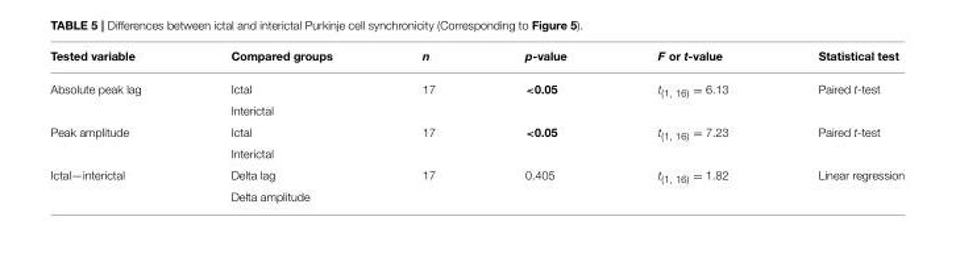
<table><thead><tr><td>Tested variable</td><td>Compared groups</td><td>n</td><td>p-value</td><td>F or t-value</td><td>Statistical test</td></tr></thead><tbody><tr><td rowspan="2">Absolute peak lag</td><td>Ictal</td><td>17</td><td>&lt;0.05</td><td>t<sub>(1, 16)</sub> = 6.13</td><td>Paired t-test</td></tr><tr><td>Interictal</td><td></td><td></td><td></td><td></td></tr><tr><td rowspan="2">Peak amplitude</td><td>Ictal</td><td>17</td><td>&lt;0.05</td><td>t<sub>(1, 16)</sub> = 7.23</td><td>Paired t-test</td></tr><tr><td>Interictal</td><td></td><td></td><td></td><td></td></tr><tr><td rowspan="2">Ictal—interictal</td><td>Delta lag</td><td>17</td><td>0.405</td><td>t<sub>(1, 16)</sub> = 1.82</td><td>Linear regression</td></tr><tr><td>Delta amplitude</td><td></td><td></td><td></td><td></td></tr></tbody></table>